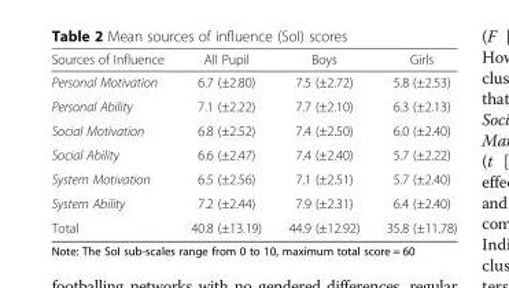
<table><thead><tr><td>Sources of Influence</td><td>All Pupil</td><td>Boys</td><td>Girls</td></tr></thead><tbody><tr><td>Personal Motivation</td><td>6.7 (±2.80)</td><td>7.5 (±2.72)</td><td>5.8 (±2.53)</td></tr><tr><td>Personal Ability</td><td>7.1 (±2.22)</td><td>7.7 (±2.10)</td><td>6.3 (±2.13)</td></tr><tr><td>Social Motivation</td><td>6.8 (±2.52)</td><td>7.4 (±2.50)</td><td>6.0 (±2.40)</td></tr><tr><td>Social Ability</td><td>6.6 (±2.47)</td><td>7.4 (±2.40)</td><td>5.7 (±2.22)</td></tr><tr><td>System Motivation</td><td>6.5 (±2.56)</td><td>7.1 (±2.51)</td><td>5.7 (±2.40)</td></tr><tr><td>System Ability</td><td>7.2 (±2.44)</td><td>7.9 (±2.31)</td><td>6.4 (±2.40)</td></tr><tr><td>Total</td><td>40.8 (±13.19)</td><td>44.9 (±12.92)</td><td>35.8 (±11.78)</td></tr></tbody></table>